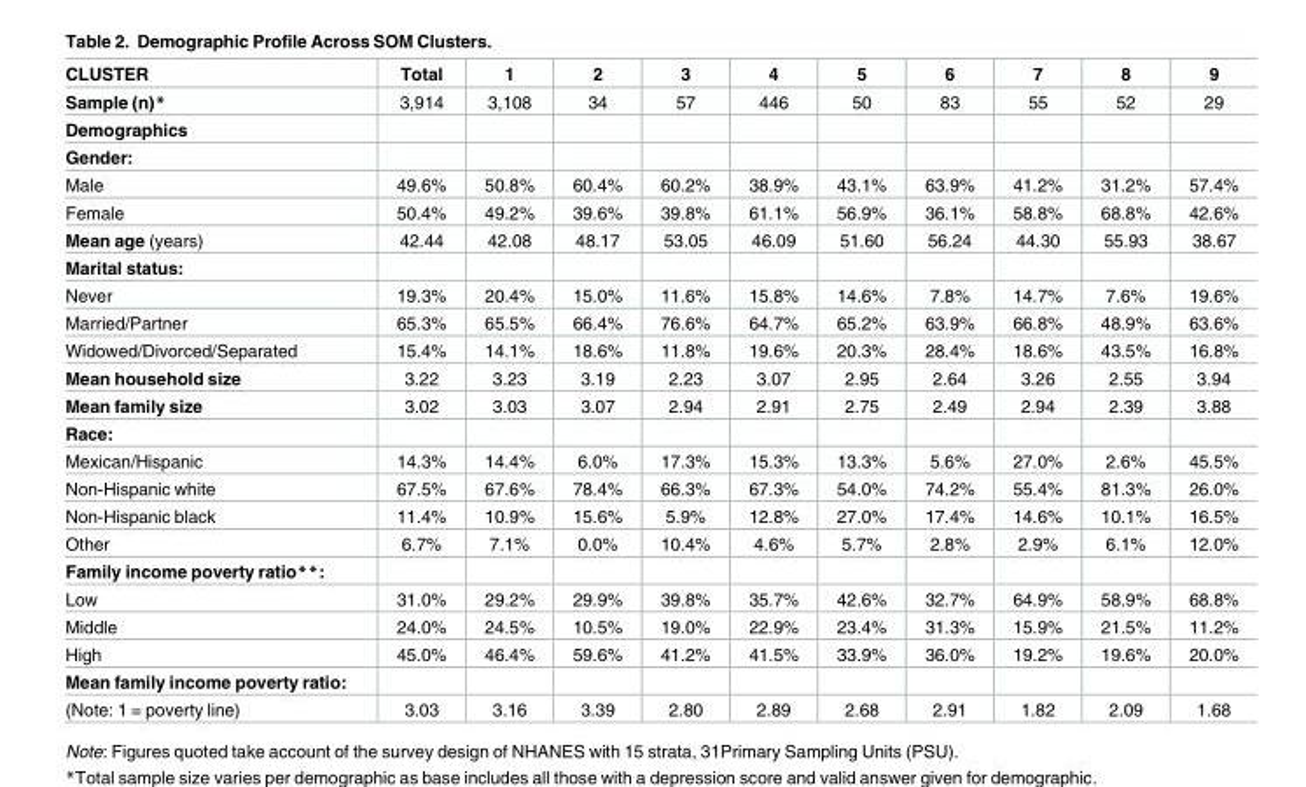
<table><thead><tr><td>CLUSTER</td><td>Total</td><td>1</td><td>2</td><td>3</td><td>4</td><td>5</td><td>6</td><td>7</td><td>8</td><td>9</td></tr></thead><tbody><tr><td>Sample (n)*</td><td>3,914</td><td>3,108</td><td>34</td><td>57</td><td>446</td><td>50</td><td>83</td><td>55</td><td>52</td><td>29</td></tr><tr><td colspan="11">Demographics</td></tr><tr><td colspan="11">Gender:</td></tr><tr><td>Male</td><td>49.6%</td><td>50.8%</td><td>60.4%</td><td>60.2%</td><td>38.9%</td><td>43.1%</td><td>63.9%</td><td>41.2%</td><td>31.2%</td><td>57.4%</td></tr><tr><td>Female</td><td>50.4%</td><td>49.2%</td><td>39.6%</td><td>39.8%</td><td>61.1%</td><td>56.9%</td><td>36.1%</td><td>58.8%</td><td>68.8%</td><td>42.6%</td></tr><tr><td>Mean age (years)</td><td>42.44</td><td>42.08</td><td>48.17</td><td>53.05</td><td>46.09</td><td>51.60</td><td>56.24</td><td>44.30</td><td>55.93</td><td>38.67</td></tr><tr><td colspan="11">Marital status:</td></tr><tr><td>Never</td><td>19.3%</td><td>20.4%</td><td>15.0%</td><td>11.6%</td><td>15.8%</td><td>14.6%</td><td>7.8%</td><td>14.7%</td><td>7.6%</td><td>19.6%</td></tr><tr><td>Married/Partner</td><td>65.3%</td><td>65.5%</td><td>66.4%</td><td>76.6%</td><td>64.7%</td><td>65.2%</td><td>63.9%</td><td>66.8%</td><td>48.9%</td><td>63.6%</td></tr><tr><td>Widowed/Divorced/Separated</td><td>15.4%</td><td>14.1%</td><td>18.6%</td><td>11.8%</td><td>19.6%</td><td>20.3%</td><td>28.4%</td><td>18.6%</td><td>43.5%</td><td>16.8%</td></tr><tr><td>Mean household size</td><td>3.22</td><td>3.23</td><td>3.19</td><td>2.23</td><td>3.07</td><td>2.95</td><td>2.64</td><td>3.26</td><td>2.55</td><td>3.94</td></tr><tr><td>Mean family size</td><td>3.02</td><td>3.03</td><td>3.07</td><td>2.94</td><td>2.91</td><td>2.75</td><td>2.49</td><td>2.94</td><td>2.39</td><td>3.88</td></tr><tr><td colspan="11">Race:</td></tr><tr><td>Mexican/Hispanic</td><td>14.3%</td><td>14.4%</td><td>6.0%</td><td>17.3%</td><td>15.3%</td><td>13.3%</td><td>5.6%</td><td>27.0%</td><td>2.6%</td><td>45.5%</td></tr><tr><td>Non-Hispanic white</td><td>67.5%</td><td>67.6%</td><td>78.4%</td><td>66.3%</td><td>67.3%</td><td>54.0%</td><td>74.2%</td><td>55.4%</td><td>81.3%</td><td>26.0%</td></tr><tr><td>Non-Hispanic black</td><td>11.4%</td><td>10.9%</td><td>15.6%</td><td>5.9%</td><td>12.8%</td><td>27.0%</td><td>17.4%</td><td>14.6%</td><td>10.1%</td><td>16.5%</td></tr><tr><td>Other</td><td>6.7%</td><td>7.1%</td><td>0.0%</td><td>10.4%</td><td>4.6%</td><td>5.7%</td><td>2.8%</td><td>2.9%</td><td>6.1%</td><td>12.0%</td></tr><tr><td colspan="11">Family income poverty ratio**:</td></tr><tr><td>Low</td><td>31.0%</td><td>29.2%</td><td>29.9%</td><td>39.8%</td><td>35.7%</td><td>42.6%</td><td>32.7%</td><td>64.9%</td><td>58.9%</td><td>68.8%</td></tr><tr><td>Middle</td><td>24.0%</td><td>24.5%</td><td>10.5%</td><td>19.0%</td><td>22.9%</td><td>23.4%</td><td>31.3%</td><td>15.9%</td><td>21.5%</td><td>11.2%</td></tr><tr><td>High</td><td>45.0%</td><td>46.4%</td><td>59.6%</td><td>41.2%</td><td>41.5%</td><td>33.9%</td><td>36.0%</td><td>19.2%</td><td>19.6%</td><td>20.0%</td></tr><tr><td colspan="11">Mean family income poverty ratio:</td></tr><tr><td>(Note: 1 = poverty line)</td><td>3.03</td><td>3.16</td><td>3.39</td><td>2.80</td><td>2.89</td><td>2.68</td><td>2.91</td><td>1.82</td><td>2.09</td><td>1.68</td></tr></tbody></table>